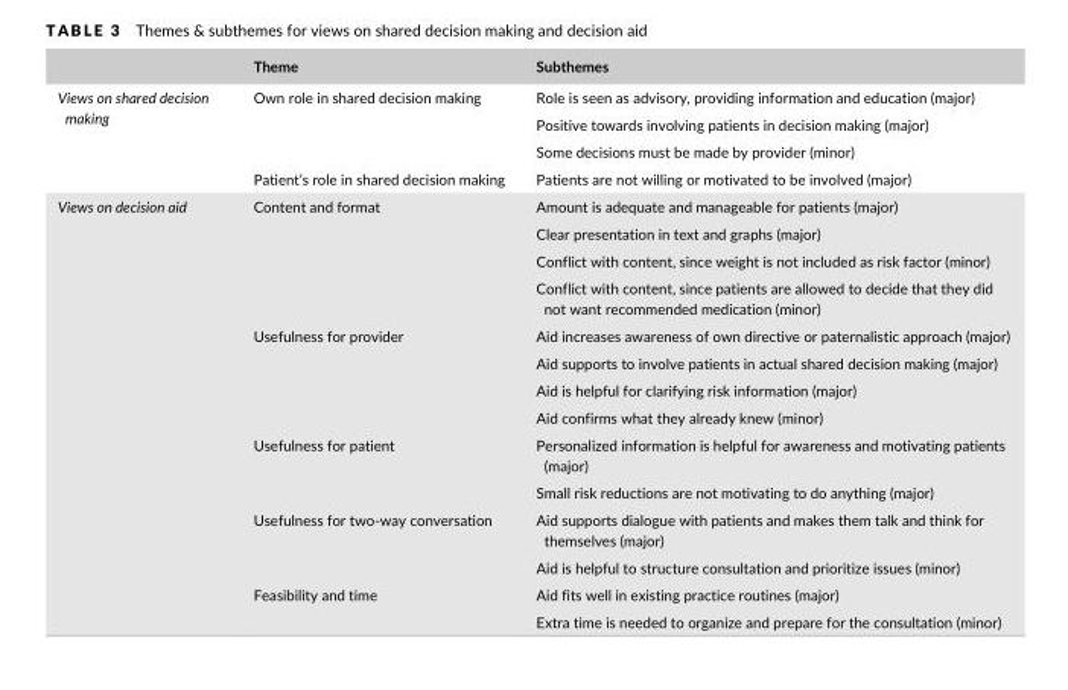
<table><thead><tr><td></td><td>Theme</td><td>Subthemes</td></tr></thead><tbody><tr><td rowspan="4">Views on shared decision making</td><td rowspan="3">Own role in shared decision making</td><td>Role is seen as advisory, providing information and education (major)</td></tr><tr><td>Positive towards involving patients in decision making (major)</td></tr><tr><td>Some decisions must be made by provider (minor)</td></tr><tr><td>Patient’s role in shared decision making</td><td>Patients are not willing or motivated to be involved (major)</td></tr><tr><td rowspan="14">Views on decision aid</td><td rowspan="4">Content and format</td><td>Amount is adequate and manageable for patients (major)</td></tr><tr><td>Clear presentation in text and graphs (major)</td></tr><tr><td>Conflict with content, since weight is not included as risk factor (minor)</td></tr><tr><td>Conflict with content, since patients are allowed to decide that they did not want recommended medication (minor)</td></tr><tr><td rowspan="4">Usefulness for provider</td><td>Aid increases awareness of own directive or paternalistic approach (major)</td></tr><tr><td>Aid supports to involve patients in actual shared decision making (major)</td></tr><tr><td>Aid is helpful for clarifying risk information (major)</td></tr><tr><td>Aid confirms what they already knew (minor)</td></tr><tr><td rowspan="2">Usefulness for patient</td><td>Personalized information is helpful for awareness and motivating patients (major)</td></tr><tr><td>Small risk reductions are not motivating to do anything (major)</td></tr><tr><td rowspan="2">Usefulness for two- way conversation</td><td>Aid supports dialogue with patients and makes them talk and think for themselves (major)</td></tr><tr><td>Aid is helpful to structure consultation and prioritize issues (minor)</td></tr><tr><td rowspan="2">Feasibility and time</td><td>Aid fits well in existing practice routines (major)</td></tr><tr><td>Extra time is needed to organize and prepare for the consultation (minor)</td></tr></tbody></table>